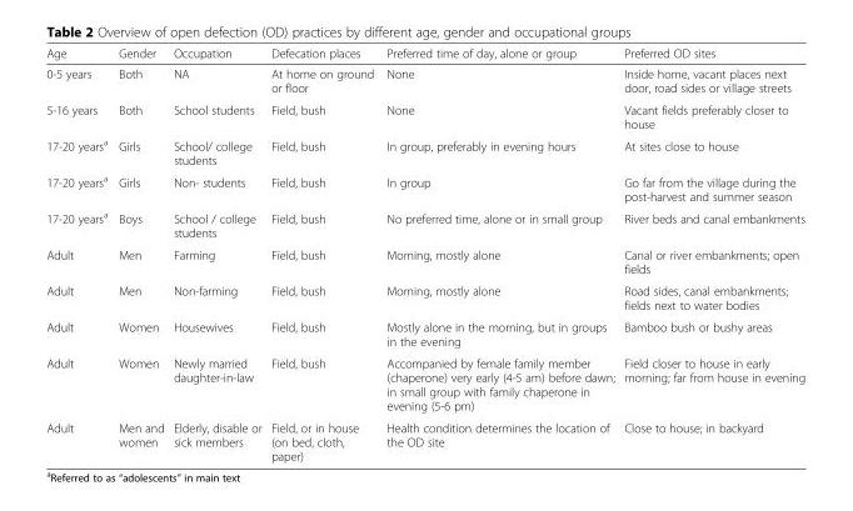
<table><thead><tr><td>Age</td><td>Gender</td><td>Occupation</td><td>Defecation places</td><td>Preferred time of day, alone or group</td><td>Preferred OD sites</td></tr></thead><tbody><tr><td>0-5 years</td><td>Both</td><td>NA</td><td>At home on ground or floor</td><td>None</td><td>Inside home, vacant places next door, road sides or village streets</td></tr><tr><td>5-16 years</td><td>Both</td><td>School students</td><td>Field, bush</td><td>None</td><td>Vacant fields preferably closer to house</td></tr><tr><td>17-20 years<sup>a</sup></td><td>Girls</td><td>School/ college students</td><td>Field, bush</td><td>In group, preferably in evening hours</td><td>At sites close to house</td></tr><tr><td>17-20 years<sup>a</sup></td><td>Girls</td><td>Non- students</td><td>Field, bush</td><td>In group</td><td>Go far from the village during the post-harvest and summer season</td></tr><tr><td>17-20 years<sup>a</sup></td><td>Boys</td><td>School / college students</td><td>Field, bush</td><td>No preferred time, alone or in small group</td><td>River beds and canal embankments</td></tr><tr><td>Adult</td><td>Men</td><td>Farming</td><td>Field, bush</td><td>Morning, mostly alone</td><td>Canal or river embankments; open fields</td></tr><tr><td>Adult</td><td>Men</td><td>Non-farming</td><td>Field, bush</td><td>Morning, mostly alone</td><td>Road sides, canal embankments; fields next to water bodies</td></tr><tr><td>Adult</td><td>Women</td><td>Housewives</td><td>Field, bush</td><td>Mostly alone in the morning, but in groups in the evening</td><td>Bamboo bush or bushy areas</td></tr><tr><td>Adult</td><td>Women</td><td>Newly married daughter-in-law</td><td>Field, bush</td><td>Accompanied by female family member (chaperone) very early (4-5 am) before dawn; in small group with family chaperone in evening (5-6 pm)</td><td>Field closer to house in early morning; far from house in evening</td></tr><tr><td>Adult</td><td>Men and women</td><td>Elderly, disable or sick members</td><td>Field, or in house (on bed, cloth, paper)</td><td>Health condition determines the location of the OD site</td><td>Close to house; in backyard</td></tr></tbody></table>